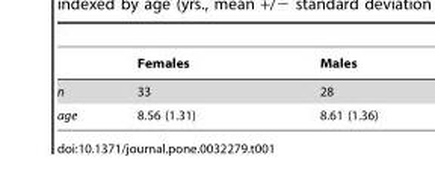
<table><thead><tr><td></td><td>Females</td><td>Males</td></tr></thead><tbody><tr><td>n</td><td>33</td><td>28</td></tr><tr><td>age</td><td>8.56 (1.31)</td><td>8.61 (1.36)</td></tr></tbody></table>